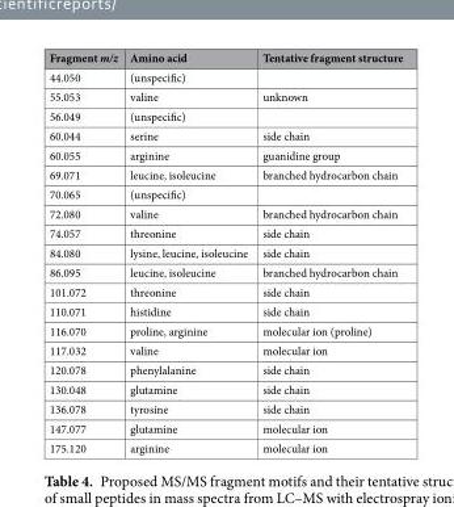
<table><thead><tr><td>Fragment m/z</td><td>Amino acid</td><td>Tentative fragment structure</td></tr></thead><tbody><tr><td>44.050</td><td>(unspecific)</td><td></td></tr><tr><td>55.053</td><td>valine</td><td>unknown</td></tr><tr><td>56.049</td><td>(unspecific)</td><td></td></tr><tr><td>60.044</td><td>serine</td><td>side chain</td></tr><tr><td>60.055</td><td>arginine</td><td>guanidine group</td></tr><tr><td>69.071</td><td>leucine, isoleucine</td><td>branched hydrocarbon chain</td></tr><tr><td>70.065</td><td>(unspecific)</td><td></td></tr><tr><td>72.080</td><td>valine</td><td>branched hydrocarbon chain</td></tr><tr><td>74.057</td><td>threonine</td><td>side chain</td></tr><tr><td>84.080</td><td>lysine, leucine, isoleucine</td><td>side chain</td></tr><tr><td>86.095</td><td>leucine, isoleucine</td><td>branched hydrocarbon chain</td></tr><tr><td>101.072</td><td>threonine</td><td>side chain</td></tr><tr><td>110.071</td><td>histidine</td><td>side chain</td></tr><tr><td>116.070</td><td>proline, arginine</td><td>molecular ion (proline)</td></tr><tr><td>117.032</td><td>valine</td><td>molecular ion</td></tr><tr><td>120.078</td><td>phenylalanine</td><td>side chain</td></tr><tr><td>130.048</td><td>glutamine</td><td>side chain</td></tr><tr><td>136.078</td><td>tyrosine</td><td>side chain</td></tr><tr><td>147.077</td><td>glutamine</td><td>molecular ion</td></tr><tr><td>175.120</td><td>arginine</td><td>molecular ion</td></tr></tbody></table>